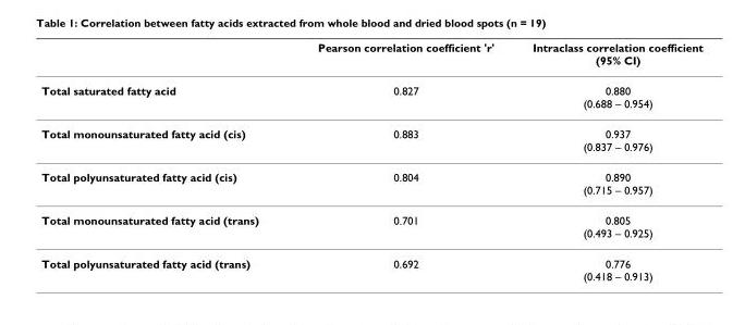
<table><thead><tr><td></td><td>Pearson correlation coefficient &#x27;r&#x27;</td><td>Intraclass correlation coefficient (95% CI)</td></tr></thead><tbody><tr><td>Total saturated fatty acid</td><td>0.827</td><td>0.880 (0.688 – 0.954)</td></tr><tr><td>Total monounsaturated fatty acid (cis)</td><td>0.883</td><td>0.937 (0.837 – 0.976)</td></tr><tr><td>Total polyunsaturated fatty acid (cis)</td><td>0.804</td><td>0.890 (0.715 – 0.957)</td></tr><tr><td>Total monounsaturated fatty acid (trans)</td><td>0.701</td><td>0.805 (0.493 – 0.925)</td></tr><tr><td>Total polyunsaturated fatty acid (trans)</td><td>0.692</td><td>0.776 (0.418 – 0.913)</td></tr></tbody></table>